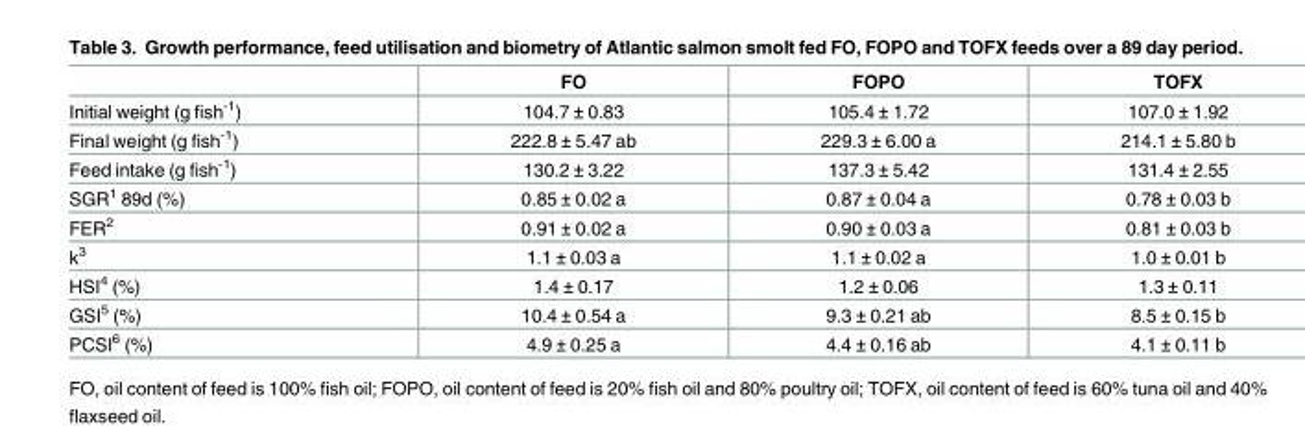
<table><thead><tr><td></td><td>FO</td><td>FOPO</td><td>TOFX</td></tr></thead><tbody><tr><td>Initial weight (g fish<sup>-1</sup>)</td><td>104.7 ± 0.83</td><td>105.4 ± 1.72</td><td>107.0 ± 1.92</td></tr><tr><td>Final weight (g fish<sup>-1</sup>)</td><td>222.8 ± 5.47 ab</td><td>229.3 ± 6.00 a</td><td>214.1 ± 5.80 b</td></tr><tr><td>Feed intake (g fish<sup>-1</sup>)</td><td>130.2 ± 3.22</td><td>137.3 ± 5.42</td><td>131.4 ± 2.55</td></tr><tr><td>SGR<sup>1</sup> 89d (%)</td><td>0.85 ± 0.02 a</td><td>0.87 ± 0.04 a</td><td>0.78 ± 0.03 b</td></tr><tr><td>FER<sup>2</sup></td><td>0.91 ± 0.02 a</td><td>0.90 ± 0.03 a</td><td>0.81 ± 0.03 b</td></tr><tr><td>k<sup>3</sup></td><td>1.1 ± 0.03 a</td><td>1.1 ± 0.02 a</td><td>1.0 ± 0.01 b</td></tr><tr><td>HSI<sup>4</sup> (%)</td><td>1.4 ± 0.17</td><td>1.2 ± 0.06</td><td>1.3 ± 0.11</td></tr><tr><td>GSI<sup>5</sup> (%)</td><td>10.4 ± 0.54 a</td><td>9.3 ± 0.21 ab</td><td>8.5 ± 0.15 b</td></tr><tr><td>PCSI<sup>6</sup> (%)</td><td>4.9 ± 0.25 a</td><td>4.4 ± 0.16 ab</td><td>4.1 ± 0.11 b</td></tr></tbody></table>